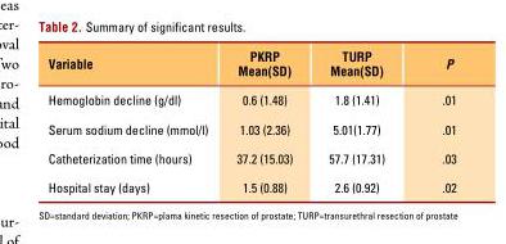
<table><thead><tr><td>Variable</td><td>PKRP Mean(SD)</td><td>TURP Mean(SD)</td><td>P</td></tr></thead><tbody><tr><td>Hemoglobin decline (g/dl)</td><td>0.6 (1.48)</td><td>1.8 (1.41)</td><td>.01</td></tr><tr><td>Serum sodium decline (mmol/l)</td><td>1.03 (2.36)</td><td>5.01(1.77)</td><td>.01</td></tr><tr><td>Catheterization time (hours)</td><td>37.2 (15.03)</td><td>57.7 (17.31)</td><td>.03</td></tr><tr><td>Hospital stay (days)</td><td>1.5 (0.88)</td><td>2.6 (0.92)</td><td>.02</td></tr></tbody></table>